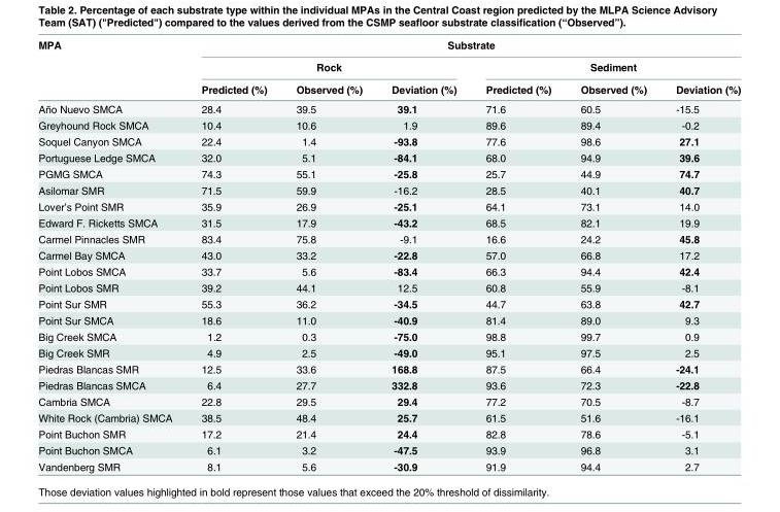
<table><thead><tr><td rowspan="3">MPA</td><td colspan="6">Substrate</td></tr><tr><td colspan="3">Rock</td><td colspan="3">Sediment</td></tr><tr><td>Predicted (%)</td><td>Observed (%)</td><td>Deviation (%)</td><td>Predicted (%)</td><td>Observed (%)</td><td>Deviation (%)</td></tr></thead><tbody><tr><td>Año Nuevo SMCA</td><td>28.4</td><td>39.5</td><td>39.1</td><td>71.6</td><td>60.5</td><td>-15.5</td></tr><tr><td>Greyhound Rock SMCA</td><td>10.4</td><td>10.6</td><td>1.9</td><td>89.6</td><td>89.4</td><td>-0.2</td></tr><tr><td>Soquel Canyon SMCA</td><td>22.4</td><td>1.4</td><td>-93.8</td><td>77.6</td><td>98.6</td><td>27.1</td></tr><tr><td>Portuguese Ledge SMCA</td><td>32.0</td><td>5.1</td><td>-84.1</td><td>68.0</td><td>94.9</td><td>39.6</td></tr><tr><td>PGMG SMCA</td><td>74.3</td><td>55.1</td><td>-25.8</td><td>25.7</td><td>44.9</td><td>74.7</td></tr><tr><td>Asilomar SMR</td><td>71.5</td><td>59.9</td><td>-16.2</td><td>28.5</td><td>40.1</td><td>40.7</td></tr><tr><td>Lover’s Point SMR</td><td>35.9</td><td>26.9</td><td>-25.1</td><td>64.1</td><td>73.1</td><td>14.0</td></tr><tr><td>Edward F. Ricketts SMCA</td><td>31.5</td><td>17.9</td><td>-43.2</td><td>68.5</td><td>82.1</td><td>19.9</td></tr><tr><td>Carmel Pinnacles SMR</td><td>83.4</td><td>75.8</td><td>-9.1</td><td>16.6</td><td>24.2</td><td>45.8</td></tr><tr><td>Carmel Bay SMCA</td><td>43.0</td><td>33.2</td><td>-22.8</td><td>57.0</td><td>66.8</td><td>17.2</td></tr><tr><td>Point Lobos SMCA</td><td>33.7</td><td>5.6</td><td>-83.4</td><td>66.3</td><td>94.4</td><td>42.4</td></tr><tr><td>Point Lobos SMR</td><td>39.2</td><td>44.1</td><td>12.5</td><td>60.8</td><td>55.9</td><td>-8.1</td></tr><tr><td>Point Sur SMR</td><td>55.3</td><td>36.2</td><td>-34.5</td><td>44.7</td><td>63.8</td><td>42.7</td></tr><tr><td>Point Sur SMCA</td><td>18.6</td><td>11.0</td><td>-40.9</td><td>81.4</td><td>89.0</td><td>9.3</td></tr><tr><td>Big Creek SMCA</td><td>1.2</td><td>0.3</td><td>-75.0</td><td>98.8</td><td>99.7</td><td>0.9</td></tr><tr><td>Big Creek SMR</td><td>4.9</td><td>2.5</td><td>-49.0</td><td>95.1</td><td>97.5</td><td>2.5</td></tr><tr><td>Piedras Blancas SMR</td><td>12.5</td><td>33.6</td><td>168.8</td><td>87.5</td><td>66.4</td><td>-24.1</td></tr><tr><td>Piedras Blancas SMCA</td><td>6.4</td><td>27.7</td><td>332.8</td><td>93.6</td><td>72.3</td><td>-22.8</td></tr><tr><td>Cambria SMCA</td><td>22.8</td><td>29.5</td><td>29.4</td><td>77.2</td><td>70.5</td><td>-8.7</td></tr><tr><td>White Rock (Cambria) SMCA</td><td>38.5</td><td>48.4</td><td>25.7</td><td>61.5</td><td>51.6</td><td>-16.1</td></tr><tr><td>Point Buchon SMR</td><td>17.2</td><td>21.4</td><td>24.4</td><td>82.8</td><td>78.6</td><td>-5.1</td></tr><tr><td>Point Buchon SMCA</td><td>6.1</td><td>3.2</td><td>-47.5</td><td>93.9</td><td>96.8</td><td>3.1</td></tr><tr><td>Vandenberg SMR</td><td>8.1</td><td>5.6</td><td>-30.9</td><td>91.9</td><td>94.4</td><td>2.7</td></tr></tbody></table>